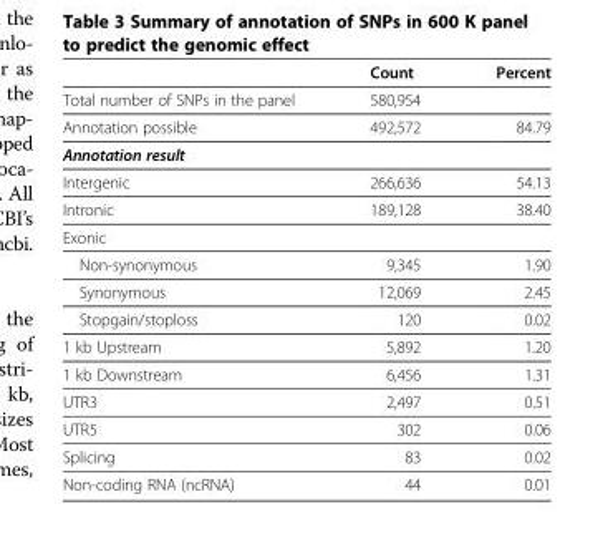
<table><thead><tr><td></td><td>Count</td><td>Percent</td></tr></thead><tbody><tr><td>Total number of SNPs in the panel</td><td>580,954</td><td></td></tr><tr><td>Annotation possible</td><td>492,572</td><td>84.79</td></tr><tr><td colspan="3">Annotation result</td></tr><tr><td>Intergenic</td><td>266,636</td><td>54.13</td></tr><tr><td>Intronic</td><td>189,128</td><td>38.40</td></tr><tr><td colspan="3">Exonic</td></tr><tr><td>Non-synonymous</td><td>9,345</td><td>1.90</td></tr><tr><td>Synonymous</td><td>12,069</td><td>2.45</td></tr><tr><td>Stopgain/stoploss</td><td>120</td><td>0.02</td></tr><tr><td>1 kb Upstream</td><td>5,892</td><td>1.20</td></tr><tr><td>1 kb Downstream</td><td>6,456</td><td>1.31</td></tr><tr><td>UTR3</td><td>2,497</td><td>0.51</td></tr><tr><td>UTR5</td><td>302</td><td>0.06</td></tr><tr><td>Splicing</td><td>83</td><td>0.02</td></tr><tr><td>Non-coding RNA (ncRNA)</td><td>44</td><td>0.01</td></tr></tbody></table>